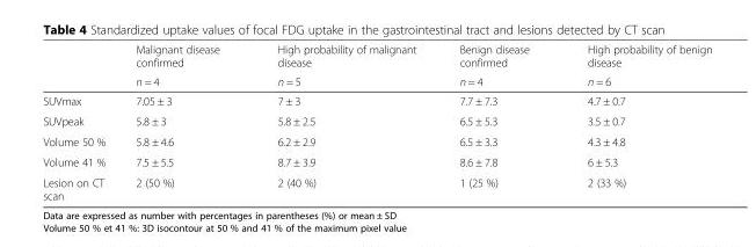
<table><thead><tr><td rowspan="2"></td><td rowspan="2">Malignant disease confirmed n = 4</td><td rowspan="2">High probability of malignant disease n = 5</td><td rowspan="2">Benign disease confirmed n = 4</td><td rowspan="2">High probability of benign disease n = 6</td></tr><tr></tr></thead><tbody><tr><td>SUVmax</td><td>7.05 ± 3</td><td>7 ± 3</td><td>7.7 ± 7.3</td><td>4.7 ± 0.7</td></tr><tr><td>SUVpeak</td><td>5.8 ± 3</td><td>5.8 ± 2.5</td><td>6.5 ± 5.3</td><td>3.5 ± 0.7</td></tr><tr><td>Volume 50 %</td><td>5.8 ± 4.6</td><td>6.2 ± 2.9</td><td>6.5 ± 3.3</td><td>4.3 ± 4.8</td></tr><tr><td>Volume 41 %</td><td>7.5 ± 5.5</td><td>8.7 ± 3.9</td><td>8.6 ± 7.8</td><td>6 ± 5.3</td></tr><tr><td>Lesion on CT scan</td><td>2 (50 %)</td><td>2 (40 %)</td><td>1 (25 %)</td><td>2 (33 %)</td></tr></tbody></table>